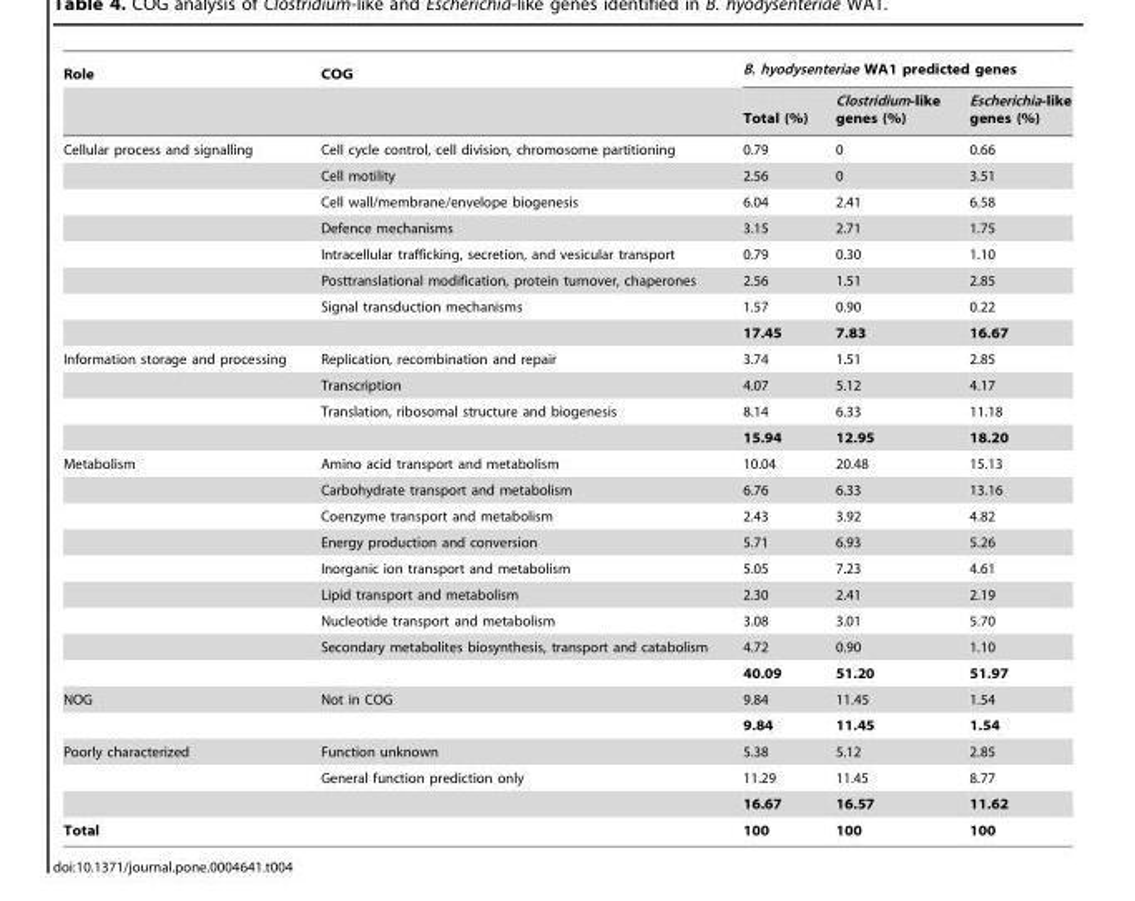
<table><thead><tr><td rowspan="2">Role</td><td rowspan="2">COG</td><td colspan="3">B. hyodysenteriae WA1 predicted genes</td></tr><tr><td>Total (%)</td><td>Clostridium-like genes (%)</td><td>Escherichia-like genes (%)</td></tr></thead><tbody><tr><td rowspan="8">Cellular process and signalling</td><td>Cell cycle control, cell division, chromosome partitioning</td><td>0.79</td><td>0</td><td>0.66</td></tr><tr><td>Cell motility</td><td>2.56</td><td>0</td><td>3.51</td></tr><tr><td>Cell wall/membrane/envelope biogenesis</td><td>6.04</td><td>2.41</td><td>6.58</td></tr><tr><td>Defence mechanisms</td><td>3.15</td><td>2.71</td><td>1.75</td></tr><tr><td>Intracellular trafficking, secretion, and vesicular transport</td><td>0.79</td><td>0.30</td><td>1.10</td></tr><tr><td>Posttranslational modification, protein turnover, chaperones</td><td>2.56</td><td>1.51</td><td>2.85</td></tr><tr><td>Signal transduction mechanisms</td><td>1.57</td><td>0.90</td><td>0.22</td></tr><tr><td></td><td>17.45</td><td>7.83</td><td>16.67</td></tr><tr><td rowspan="4">Information storage and processing</td><td>Replication, recombination and repair</td><td>3.74</td><td>1.51</td><td>2.85</td></tr><tr><td>Transcription</td><td>4.07</td><td>5.12</td><td>4.17</td></tr><tr><td>Translation, ribosomal structure and biogenesis</td><td>8.14</td><td>6.33</td><td>11.18</td></tr><tr><td></td><td>15.94</td><td>12.95</td><td>18.20</td></tr><tr><td rowspan="9">Metabolism</td><td>Amino acid transport and metabolism</td><td>10.04</td><td>20.48</td><td>15.13</td></tr><tr><td>Carbohydrate transport and metabolism</td><td>6.76</td><td>6.33</td><td>13.16</td></tr><tr><td>Coenzyme transport and metabolism</td><td>2.43</td><td>3.92</td><td>4.82</td></tr><tr><td>Energy production and conversion</td><td>5.71</td><td>6.93</td><td>5.26</td></tr><tr><td>Inorganic ion transport and metabolism</td><td>5.05</td><td>7.23</td><td>4.61</td></tr><tr><td>Lipid transport and metabolism</td><td>2.30</td><td>2.41</td><td>2.19</td></tr><tr><td>Nucleotide transport and metabolism</td><td>3.08</td><td>3.01</td><td>5.70</td></tr><tr><td>Secondary metabolites biosynthesis, transport and catabolism</td><td>4.72</td><td>0.90</td><td>1.10</td></tr><tr><td></td><td>40.09</td><td>51.20</td><td>51.97</td></tr><tr><td rowspan="2">NOG</td><td>Not in COG</td><td>9.84</td><td>11.45</td><td>1.54</td></tr><tr><td></td><td>9.84</td><td>11.45</td><td>1.54</td></tr><tr><td rowspan="3">Poorly characterized</td><td>Function unknown</td><td>5.38</td><td>5.12</td><td>2.85</td></tr><tr><td>General function prediction only</td><td>11.29</td><td>11.45</td><td>8.77</td></tr><tr><td></td><td>16.67</td><td>16.57</td><td>11.62</td></tr><tr><td>Total</td><td></td><td>100</td><td>100</td><td>100</td></tr></tbody></table>